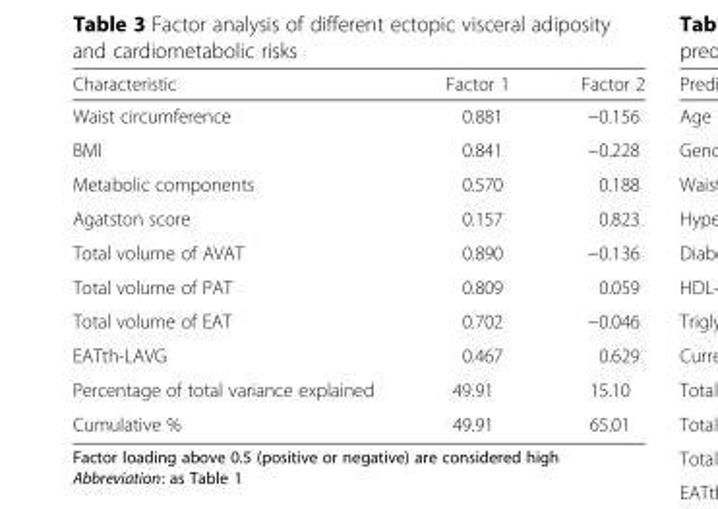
<table><thead><tr><td>Characteristic</td><td>Factor 1</td><td>Factor 2</td></tr></thead><tbody><tr><td>Waist circumference</td><td>0.881</td><td>−0.156</td></tr><tr><td>BMI</td><td>0.841</td><td>−0.228</td></tr><tr><td>Metabolic components</td><td>0.570</td><td>0.188</td></tr><tr><td>Agatston score</td><td>0.157</td><td>0.823</td></tr><tr><td>Total volume of AVAT</td><td>0.890</td><td>−0.136</td></tr><tr><td>Total volume of PAT</td><td>0.809</td><td>0.059</td></tr><tr><td>Total volume of EAT</td><td>0.702</td><td>−0.046</td></tr><tr><td>EATth-LAVG</td><td>0.467</td><td>0.629</td></tr><tr><td>Percentage of total variance explained</td><td>49.91</td><td>15.10</td></tr><tr><td>Cumulative %</td><td>49.91</td><td>65.01</td></tr></tbody></table>